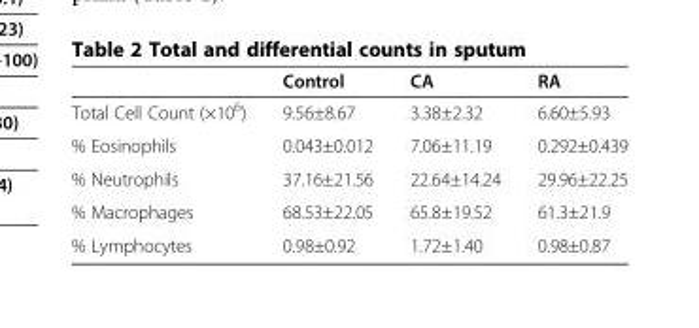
<table><thead><tr><td></td><td>Control</td><td>CA</td><td>RA</td></tr></thead><tbody><tr><td>Total Cell Count (×10<sup>6</sup>)</td><td>9.56±8.67</td><td>3.38±2.32</td><td>6.60±5.93</td></tr><tr><td>% Eosinophils</td><td>0.043±0.012</td><td>7.06±11.19</td><td>0.292±0.439</td></tr><tr><td>% Neutrophils</td><td>37.16±21.56</td><td>22.64±14.24</td><td>29.96±22.25</td></tr><tr><td>% Macrophages</td><td>68.53±22.05</td><td>65.8±19.52</td><td>61.3±21.9</td></tr><tr><td>% Lymphocytes</td><td>0.98±0.92</td><td>1.72±1.40</td><td>0.98±0.87</td></tr></tbody></table>